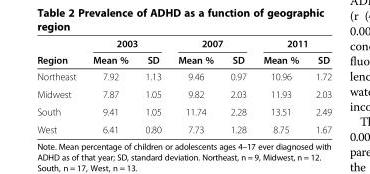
<table><thead><tr><td rowspan="2">Region</td><td colspan="2">2003</td><td colspan="2">2007</td><td colspan="2">2011</td></tr><tr><td>Mean %</td><td>SD</td><td>Mean %</td><td>SD</td><td>Mean %</td><td>SD</td></tr></thead><tbody><tr><td>Northeast</td><td>7.92</td><td>1.13</td><td>9.46</td><td>0.97</td><td>10.96</td><td>1.72</td></tr><tr><td>Midwest</td><td>7.87</td><td>1.05</td><td>9.82</td><td>2.03</td><td>11.93</td><td>2.03</td></tr><tr><td>South</td><td>9.41</td><td>1.05</td><td>11.74</td><td>2.28</td><td>13.51</td><td>2.49</td></tr><tr><td>West</td><td>6.41</td><td>0.80</td><td>7.73</td><td>1.28</td><td>8.75</td><td>1.67</td></tr></tbody></table>